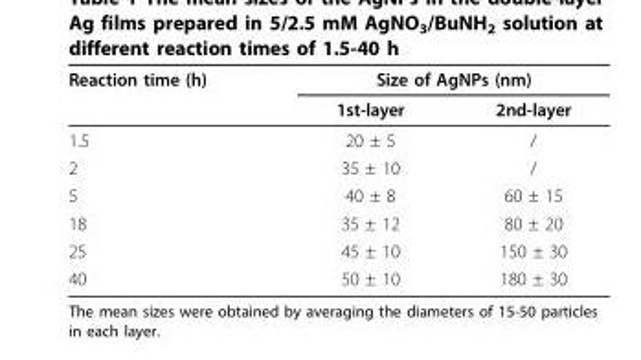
<table><thead><tr><td rowspan="2">Reaction time (h)</td><td colspan="2">Size of AgNPs (nm)</td></tr><tr><td>1st-layer</td><td>2nd-layer</td></tr></thead><tbody><tr><td>1.5</td><td>20 ± 5</td><td>/</td></tr><tr><td>2</td><td>35 ± 10</td><td>/</td></tr><tr><td>5</td><td>40 ± 8</td><td>60 ± 15</td></tr><tr><td>18</td><td>35 ± 12</td><td>80 ± 20</td></tr><tr><td>25</td><td>45 ± 10</td><td>150 ± 30</td></tr><tr><td>40</td><td>50 ± 10</td><td>180 ± 30</td></tr></tbody></table>